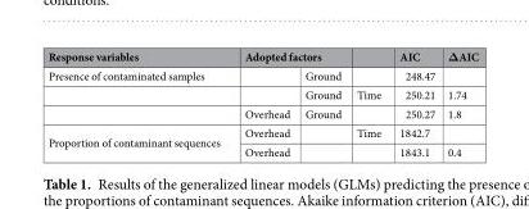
<table><thead><tr><td rowspan="2">Response variables Presence of contaminated samples</td><td colspan="2">Adopted factors</td><td rowspan="2"></td><td rowspan="2">AIC 248.47</td><td rowspan="2">ΔAIC</td></tr><tr><td></td><td>Ground</td></tr></thead><tbody><tr><td></td><td></td><td>Ground</td><td>Time</td><td>250.21</td><td>1.74</td></tr><tr><td></td><td>Overhead</td><td>Ground</td><td></td><td>250.27</td><td>1.8</td></tr><tr><td rowspan="2">Proportion of contaminant sequences</td><td>Overhead</td><td></td><td>Time</td><td>1842.7</td><td></td></tr><tr><td>Overhead</td><td></td><td></td><td>1843.1</td><td>0.4</td></tr></tbody></table>